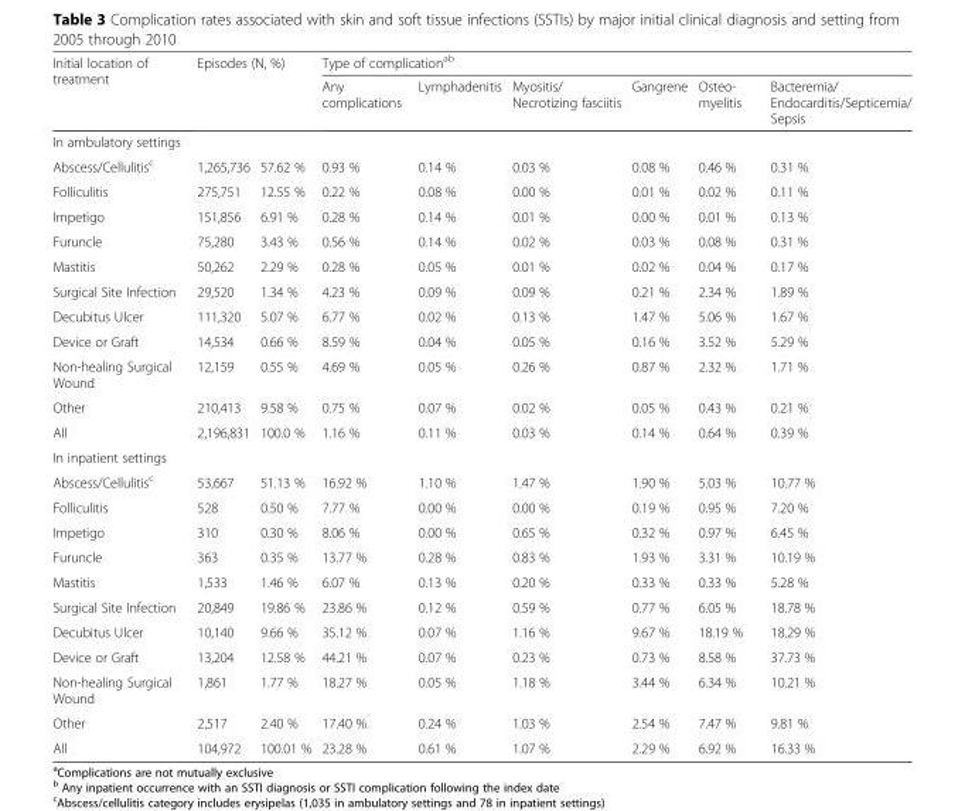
<table><thead><tr><td rowspan="2">Initial location of treatment</td><td rowspan="2" colspan="2">Episodes (N, %)</td><td colspan="6">Type of complication<sup>ab</sup></td></tr><tr><td>Any complications</td><td>Lymphadenitis</td><td>Myositis/ Necrotizing fasciitis</td><td>Gangrene</td><td>Osteo- myelitis</td><td>Bacteremia/ Endocarditis/Septicemia/ Sepsis</td></tr><tr><td colspan="9">In ambulatory settings</td></tr><tr><td>Abscess/Cellulitis<sup>c</sup></td><td>1,265,736</td><td>57.62 %</td><td>0.93 %</td><td>0.14 %</td><td>0.03 %</td><td>0.08 %</td><td>0.46 %</td><td>0.31 %</td></tr></thead><tbody><tr><td>Folliculitis</td><td>275,751</td><td>12.55 %</td><td>0.22 %</td><td>0.08 %</td><td>0.00 %</td><td>0.01 %</td><td>0.02 %</td><td>0.11 %</td></tr><tr><td>Impetigo</td><td>151,856</td><td>6.91 %</td><td>0.28 %</td><td>0.14 %</td><td>0.01 %</td><td>0.00 %</td><td>0.01 %</td><td>0.13 %</td></tr><tr><td>Furuncle</td><td>75,280</td><td>3.43 %</td><td>0.56 %</td><td>0.14 %</td><td>0.02 %</td><td>0.03 %</td><td>0.08 %</td><td>0.31 %</td></tr><tr><td>Mastitis</td><td>50,262</td><td>2.29 %</td><td>0.28 %</td><td>0.05 %</td><td>0.01 %</td><td>0.02 %</td><td>0.04 %</td><td>0.17 %</td></tr><tr><td>Surgical Site Infection</td><td>29,520</td><td>1.34 %</td><td>4.23 %</td><td>0.09 %</td><td>0.09 %</td><td>0.21 %</td><td>2.34 %</td><td>1.89 %</td></tr><tr><td>Decubitus Ulcer</td><td>111,320</td><td>5.07 %</td><td>6.77 %</td><td>0.02 %</td><td>0.13 %</td><td>1.47 %</td><td>5.06 %</td><td>1.67 %</td></tr><tr><td>Device or Graft</td><td>14,534</td><td>0.66 %</td><td>8.59 %</td><td>0.04 %</td><td>0.05 %</td><td>0.16 %</td><td>3.52 %</td><td>5.29 %</td></tr><tr><td>Non-healing Surgical Wound</td><td>12,159</td><td>0.55 %</td><td>4.69 %</td><td>0.05 %</td><td>0.26 %</td><td>0.87 %</td><td>2.32 %</td><td>1.71 %</td></tr><tr><td>Other</td><td>210,413</td><td>9.58 %</td><td>0.75 %</td><td>0.07 %</td><td>0.02 %</td><td>0.05 %</td><td>0.43 %</td><td>0.21 %</td></tr><tr><td>All</td><td>2,196,831</td><td>100.0 %</td><td>1.16 %</td><td>0.11 %</td><td>0.03 %</td><td>0.14 %</td><td>0.64 %</td><td>0.39 %</td></tr><tr><td colspan="9">In inpatient settings</td></tr><tr><td>Abscess/Cellulitis<sup>c</sup></td><td>53,667</td><td>51.13 %</td><td>16.92 %</td><td>1.10 %</td><td>1.47 %</td><td>1.90 %</td><td>5.03 %</td><td>10.77 %</td></tr><tr><td>Folliculitis</td><td>528</td><td>0.50 %</td><td>7.77 %</td><td>0.00 %</td><td>0.00 %</td><td>0.19 %</td><td>0.95 %</td><td>7.20 %</td></tr><tr><td>Impetigo</td><td>310</td><td>0.30 %</td><td>8.06 %</td><td>0.00 %</td><td>0.65 %</td><td>0.32 %</td><td>0.97 %</td><td>6.45 %</td></tr><tr><td>Furuncle</td><td>363</td><td>0.35 %</td><td>13.77 %</td><td>0.28 %</td><td>0.83 %</td><td>1.93 %</td><td>3.31 %</td><td>10.19 %</td></tr><tr><td>Mastitis</td><td>1,533</td><td>1.46 %</td><td>6.07 %</td><td>0.13 %</td><td>0.20 %</td><td>0.33 %</td><td>0.33 %</td><td>5.28 %</td></tr><tr><td>Surgical Site Infection</td><td>20,849</td><td>19.86 %</td><td>23.86 %</td><td>0.12 %</td><td>0.59 %</td><td>0.77 %</td><td>6.05 %</td><td>18.78 %</td></tr><tr><td>Decubitus Ulcer</td><td>10,140</td><td>9.66 %</td><td>35.12 %</td><td>0.07 %</td><td>1.16 %</td><td>9.67 %</td><td>18.19 %</td><td>18.29 %</td></tr><tr><td>Device or Graft</td><td>13,204</td><td>12.58 %</td><td>44.21 %</td><td>0.07 %</td><td>0.23 %</td><td>0.73 %</td><td>8.58 %</td><td>37.73 %</td></tr><tr><td>Non-healing Surgical Wound</td><td>1,861</td><td>1.77 %</td><td>18.27 %</td><td>0.05 %</td><td>1.18 %</td><td>3.44 %</td><td>6.34 %</td><td>10.21 %</td></tr><tr><td>Other</td><td>2,517</td><td>2.40 %</td><td>17.40 %</td><td>0.24 %</td><td>1.03 %</td><td>2.54 %</td><td>7.47 %</td><td>9.81 %</td></tr><tr><td>All</td><td>104,972</td><td>100.01 %</td><td>23.28 %</td><td>0.61 %</td><td>1.07 %</td><td>2.29 %</td><td>6.92 %</td><td>16.33 %</td></tr></tbody></table>